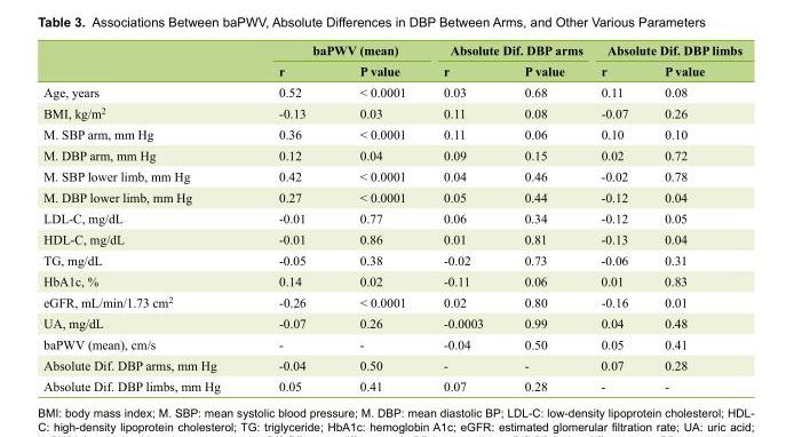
<table><thead><tr><td rowspan="2"></td><td colspan="2">baPWV (mean)</td><td colspan="2">Absolute Dif. DBP arms</td><td colspan="2">Absolute Dif. DBP limbs</td></tr><tr><td>r</td><td>P value</td><td>r</td><td>P value</td><td>r</td><td>P value</td></tr></thead><tbody><tr><td>Age, years</td><td>0.52</td><td>&lt; 0.0001</td><td>0.03</td><td>0.68</td><td>0.11</td><td>0.08</td></tr><tr><td>BMI, kg/m<sup>2</sup></td><td>-0.13</td><td>0.03</td><td>0.11</td><td>0.08</td><td>-0.07</td><td>0.26</td></tr><tr><td>M. SBP arm, mm Hg</td><td>0.36</td><td>&lt; 0.0001</td><td>0.11</td><td>0.06</td><td>0.10</td><td>0.10</td></tr><tr><td>M. DBP arm, mm Hg</td><td>0.12</td><td>0.04</td><td>0.09</td><td>0.15</td><td>0.02</td><td>0.72</td></tr><tr><td>M. SBP lower limb, mm Hg</td><td>0.42</td><td>&lt; 0.0001</td><td>0.04</td><td>0.46</td><td>-0.02</td><td>0.78</td></tr><tr><td>M. DBP lower limb, mm Hg</td><td>0.27</td><td>&lt; 0.0001</td><td>0.05</td><td>0.44</td><td>-0.12</td><td>0.04</td></tr><tr><td>LDL-C, mg/dL</td><td>-0.01</td><td>0.77</td><td>0.06</td><td>0.34</td><td>-0.12</td><td>0.05</td></tr><tr><td>HDL-C, mg/dL</td><td>-0.01</td><td>0.86</td><td>0.01</td><td>0.81</td><td>-0.13</td><td>0.04</td></tr><tr><td>TG, mg/dL</td><td>-0.05</td><td>0.38</td><td>-0.02</td><td>0.73</td><td>-0.06</td><td>0.31</td></tr><tr><td>HbA1c, %</td><td>0.14</td><td>0.02</td><td>-0.11</td><td>0.06</td><td>0.01</td><td>0.83</td></tr><tr><td>eGFR, mL/min/1.73 cm<sup>2</sup></td><td>-0.26</td><td>&lt; 0.0001</td><td>0.02</td><td>0.80</td><td>-0.16</td><td>0.01</td></tr><tr><td>UA, mg/dL</td><td>-0.07</td><td>0.26</td><td>-0.0003</td><td>0.99</td><td>0.04</td><td>0.48</td></tr><tr><td>baPWV (mean), cm/s</td><td>-</td><td>-</td><td>-0.04</td><td>0.50</td><td>0.05</td><td>0.41</td></tr><tr><td>Absolute Dif. DBP arms, mm Hg</td><td>-0.04</td><td>0.50</td><td>-</td><td>-</td><td>0.07</td><td>0.28</td></tr><tr><td>Absolute Dif. DBP limbs, mm Hg</td><td>0.05</td><td>0.41</td><td>0.07</td><td>0.28</td><td>-</td><td>-</td></tr></tbody></table>